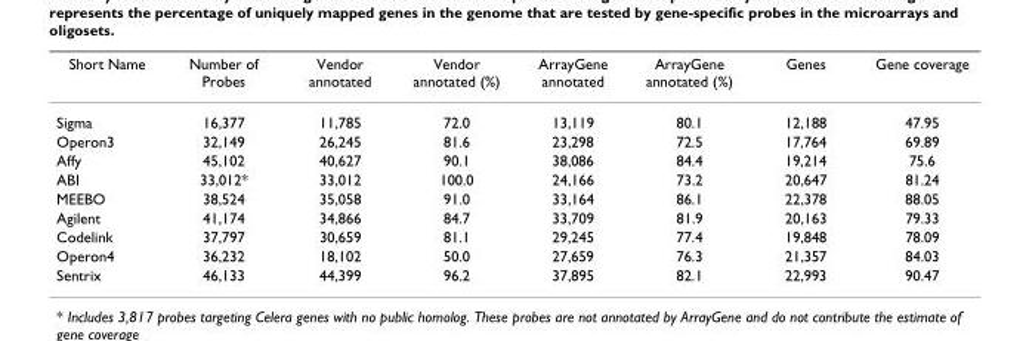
<table><thead><tr><td>Short Name</td><td>Number of Probes</td><td>Vendor annotated</td><td>Vendor annotated (%)</td><td>ArrayGene annotated</td><td>ArrayGene annotated (%)</td><td>Genes</td><td>Gene coverage</td></tr></thead><tbody><tr><td>Sigma</td><td>16,377</td><td>11,785</td><td>72.0</td><td>13,119</td><td>80.1</td><td>12,188</td><td>47.95</td></tr><tr><td>Operon3</td><td>32,149</td><td>26,245</td><td>81.6</td><td>23,298</td><td>72.5</td><td>17,764</td><td>69.89</td></tr><tr><td>Affy</td><td>45,102</td><td>40,627</td><td>90.1</td><td>38,086</td><td>84.4</td><td>19,214</td><td>75.6</td></tr><tr><td>ABI</td><td>33,012*</td><td>33,012</td><td>100.0</td><td>24,166</td><td>73.2</td><td>20,647</td><td>81.24</td></tr><tr><td>MEEBO</td><td>38,524</td><td>35,058</td><td>91.0</td><td>33,164</td><td>86.1</td><td>22,378</td><td>88.05</td></tr><tr><td>Agilent</td><td>41,174</td><td>34,866</td><td>84.7</td><td>33,709</td><td>81.9</td><td>20,163</td><td>79.33</td></tr><tr><td>Codelink</td><td>37,797</td><td>30,659</td><td>81.1</td><td>29,245</td><td>77.4</td><td>19,848</td><td>78.09</td></tr><tr><td>Operon4</td><td>36,232</td><td>18,102</td><td>50.0</td><td>27,659</td><td>76.3</td><td>21,357</td><td>84.03</td></tr><tr><td>Sentrix</td><td>46,133</td><td>44,399</td><td>96.2</td><td>37,895</td><td>82.1</td><td>22,993</td><td>90.47</td></tr></tbody></table>